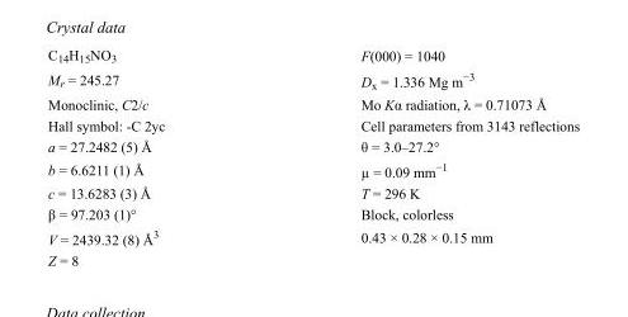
<table><tbody><tr><td>C<sub>14</sub>H<sub>15</sub>NO<sub>3</sub></td><td>F(000) = 1040</td></tr><tr><td>M<sub>r</sub> = 245.27</td><td>D<sub>x</sub> = 1.336 Mg m<sup>−3</sup></td></tr><tr><td>Monoclinic, C2/c</td><td>Mo Kα radiation, λ = 0.71073 Å</td></tr><tr><td>Hall symbol: -C 2yc</td><td>Cell parameters from 3143 reflections</td></tr><tr><td>a = 27.2482 (5) Å</td><td>θ = 3.0–27.2°</td></tr><tr><td>b = 6.6211 (1) Å</td><td>µ = 0.09 mm<sup>−1</sup></td></tr><tr><td>c = 13.6283 (3) Å</td><td>T = 296 K</td></tr><tr><td>β = 97.203 (1)°</td><td>Block, colorless</td></tr><tr><td>V = 2439.32 (8) Å<sup>3</sup></td><td>0.43 × 0.28 × 0.15 mm</td></tr><tr><td>Z = 8</td><td></td></tr></tbody></table>